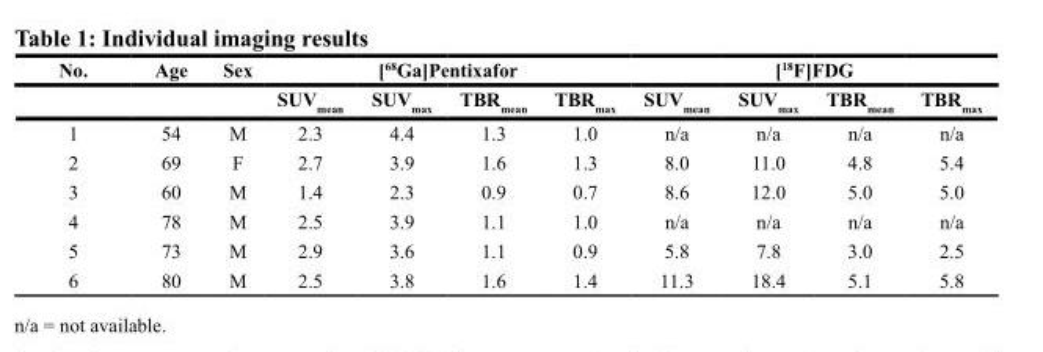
<table><thead><tr><td rowspan="2">No.</td><td rowspan="2">Age</td><td rowspan="2">Sex</td><td colspan="4">[<sup>68</sup>Ga]Pentixafor</td><td colspan="4">[<sup>18</sup>F]FDG</td></tr><tr><td>SUV<sub>mean</sub></td><td>SUV<sub>max</sub></td><td>TBR<sub>mean</sub></td><td>TBR<sub>max</sub></td><td>SUV<sub>mean</sub></td><td>SUV<sub>max</sub></td><td>TBR<sub>mean</sub></td><td>TBR<sub>max</sub></td></tr></thead><tbody><tr><td>1</td><td>54</td><td>M</td><td>2.3</td><td>4.4</td><td>1.3</td><td>1.0</td><td>n/a</td><td>n/a</td><td>n/a</td><td>n/a</td></tr><tr><td>2</td><td>69</td><td>F</td><td>2.7</td><td>3.9</td><td>1.6</td><td>1.3</td><td>8.0</td><td>11.0</td><td>4.8</td><td>5.4</td></tr><tr><td>3</td><td>60</td><td>M</td><td>1.4</td><td>2.3</td><td>0.9</td><td>0.7</td><td>8.6</td><td>12.0</td><td>5.0</td><td>5.0</td></tr><tr><td>4</td><td>78</td><td>M</td><td>2.5</td><td>3.9</td><td>1.1</td><td>1.0</td><td>n/a</td><td>n/a</td><td>n/a</td><td>n/a</td></tr><tr><td>5</td><td>73</td><td>M</td><td>2.9</td><td>3.6</td><td>1.1</td><td>0.9</td><td>5.8</td><td>7.8</td><td>3.0</td><td>2.5</td></tr><tr><td>6</td><td>80</td><td>M</td><td>2.5</td><td>3.8</td><td>1.6</td><td>1.4</td><td>11.3</td><td>18.4</td><td>5.1</td><td>5.8</td></tr></tbody></table>